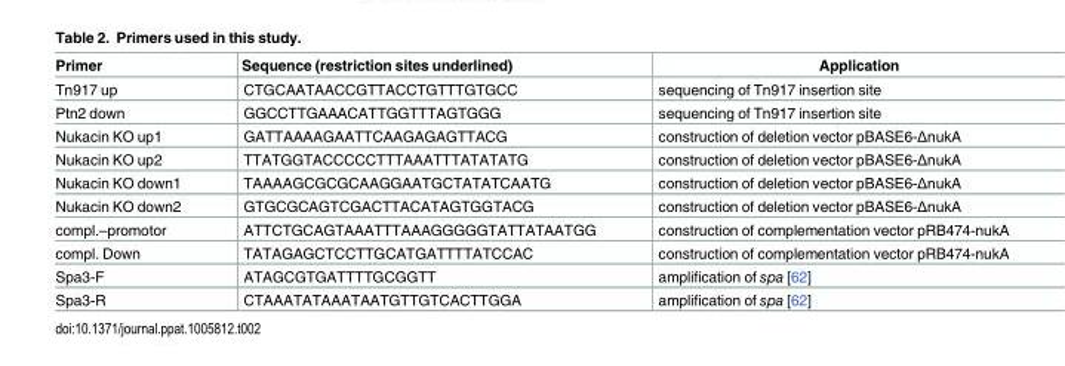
<table><thead><tr><td>Primer</td><td>Sequence (restriction sites underlined)</td><td>Application</td></tr></thead><tbody><tr><td>Tn917 up</td><td>CTGCAATAACCGTTACCTGTTTGTGCC</td><td>sequencing of Tn917 insertion site</td></tr><tr><td>Ptn2 down</td><td>GGCCTTGAAACATTGGTTTAGTGGG</td><td>sequencing of Tn917 insertion site</td></tr><tr><td>Nukacin KO up1</td><td>GATTAAAAGAATTCAAGAGAGTTACG</td><td>construction of deletion vector pBASE6-ΔnukA</td></tr><tr><td>Nukacin KO up2</td><td>TTATGGTACCCCCTTTAAATTTATATATG</td><td>construction of deletion vector pBASE6-ΔnukA</td></tr><tr><td>Nukacin KO down1</td><td>TAAAAGCGCGCAAGGAATGCTATATCAATG</td><td>construction of deletion vector pBASE6-ΔnukA</td></tr><tr><td>Nukacin KO down2</td><td>GTGCGCAGTCGACTTACATAGTGGTACG</td><td>construction of deletion vector pBASE6-ΔnukA</td></tr><tr><td>compl.–promotor</td><td>ATTCTGCAGTAAATTTAAAGGGGGTATTATAATGG</td><td>construction of complementation vector pRB474-nukA</td></tr><tr><td>compl. Down</td><td>TATAGAGCTCCTTGCATGATTTTATCCAC</td><td>construction of complementation vector pRB474-nukA</td></tr><tr><td>Spa3-F</td><td>ATAGCGTGATTTTGCGGTT</td><td>amplification of spa [62]</td></tr><tr><td>Spa3-R</td><td>CTAAATATAAATAATGTTGTCACTTGGA</td><td>amplification of spa [62]</td></tr></tbody></table>